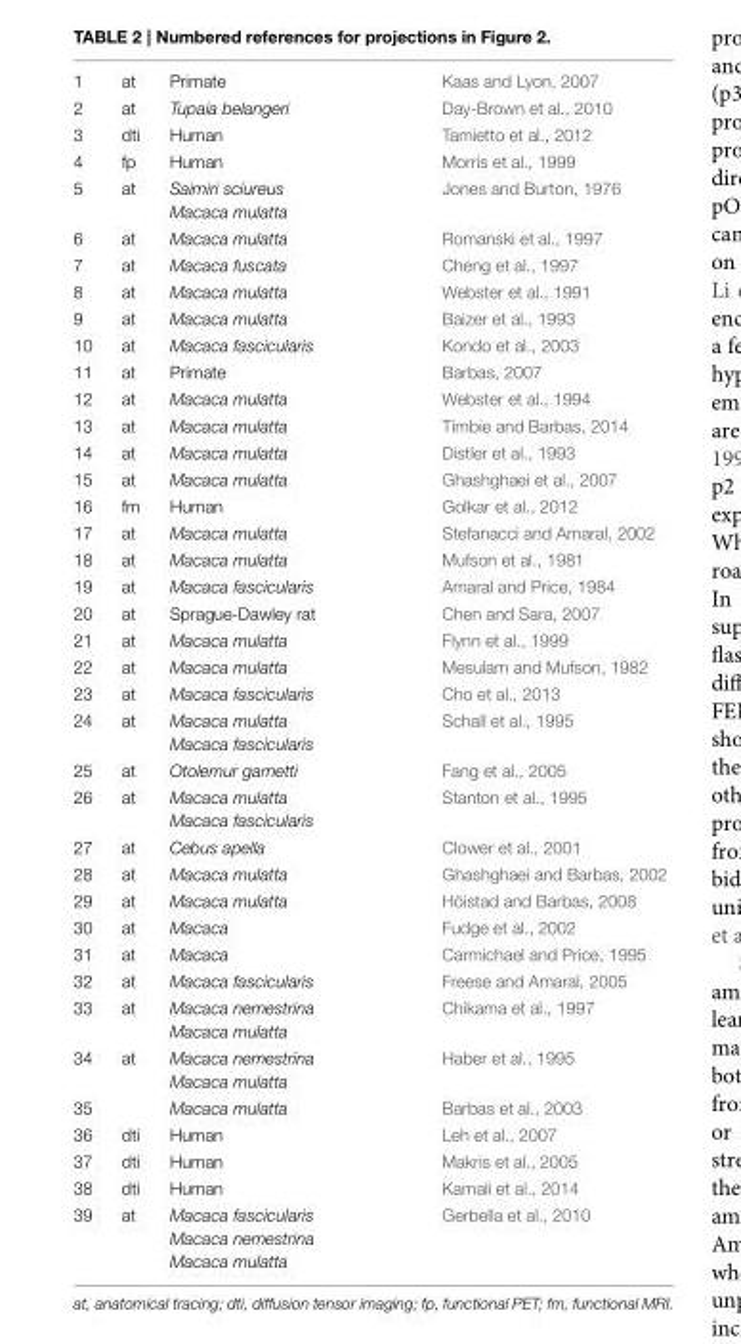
<table><tbody><tr><td>1</td><td>at</td><td>Primate</td><td>Kaas and Lyon, 2007</td></tr><tr><td>2</td><td>at</td><td>Tupaia belangeri</td><td>Day-Brown et al., 2010</td></tr><tr><td>3</td><td>dti</td><td>Human</td><td>Tamietto et al., 2012</td></tr><tr><td>4</td><td>fp</td><td>Human</td><td>Morris et al., 1999</td></tr><tr><td>5</td><td>at</td><td>Saimiri sciureus Macaca mulatta</td><td>Jones and Burton, 1976</td></tr><tr><td>6</td><td>at</td><td>Macaca mulatta</td><td>Romanski et al., 1997</td></tr><tr><td>7</td><td>at</td><td>Macaca fuscata</td><td>Cheng et al., 1997</td></tr><tr><td>8</td><td>at</td><td>Macaca mulatta</td><td>Webster et al., 1991</td></tr><tr><td>9</td><td>at</td><td>Macaca mulatta</td><td>Baizer et al., 1993</td></tr><tr><td>10</td><td>at</td><td>Macaca fascicularis</td><td>Kondo et al., 2003</td></tr><tr><td>11</td><td>at</td><td>Primate</td><td>Barbas, 2007</td></tr><tr><td>12</td><td>at</td><td>Macaca mulatta</td><td>Webster et al., 1994</td></tr><tr><td>13</td><td>at</td><td>Macaca mulatta</td><td>Timbie and Barbas, 2014</td></tr><tr><td>14</td><td>at</td><td>Macaca mulatta</td><td>Distler et al., 1993</td></tr><tr><td>15</td><td>at</td><td>Macaca mulatta</td><td>Ghashghaei et al., 2007</td></tr><tr><td>16</td><td>fm</td><td>Human</td><td>Golkar et al., 2012</td></tr><tr><td>17</td><td>at</td><td>Macaca mulatta</td><td>Stefanacci and Amaral, 2002</td></tr><tr><td>18</td><td>at</td><td>Macaca mulatta</td><td>Mufson et al., 1981</td></tr><tr><td>19</td><td>at</td><td>Macaca fascicularis</td><td>Amaral and Price, 1984</td></tr><tr><td>20</td><td>at</td><td>Sprague-Dawley rat</td><td>Chen and Sara, 2007</td></tr><tr><td>21</td><td>at</td><td>Macaca mulatta</td><td>Flynn et al., 1999</td></tr><tr><td>22</td><td>at</td><td>Macaca mulatta</td><td>Mesulam and Mufson, 1982</td></tr><tr><td>23</td><td>at</td><td>Macaca fascicularis</td><td>Cho et al., 2013</td></tr><tr><td>24</td><td>at</td><td>Macaca mulatta Macaca fascicularis</td><td>Schall et al., 1995</td></tr><tr><td>25</td><td>at</td><td>Otolemur garnetti</td><td>Fang et al., 2005</td></tr><tr><td>26</td><td>at</td><td>Macaca mulatta Macaca fascicularis</td><td>Stanton et al., 1995</td></tr><tr><td>27</td><td>at</td><td>Cebus apella</td><td>Clower et al., 2001</td></tr><tr><td>28</td><td>at</td><td>Macaca mulatta</td><td>Ghashghaei and Barbas, 2002</td></tr><tr><td>29</td><td>at</td><td>Macaca mulatta</td><td>Höistad and Barbas, 2008</td></tr><tr><td>30</td><td>at</td><td>Macaca</td><td>Fudge et al., 2002</td></tr><tr><td>31</td><td>at</td><td>Macaca</td><td>Carmichael and Price, 1995</td></tr><tr><td>32</td><td>at</td><td>Macaca fascicularis</td><td>Freese and Amaral, 2005</td></tr><tr><td>33</td><td>at</td><td>Macaca nemestrina Macaca mulatta</td><td>Chikama et al., 1997</td></tr><tr><td>34</td><td>at</td><td>Macaca nemestrina Macaca mulatta</td><td>Haber et al., 1995</td></tr><tr><td>35</td><td></td><td>Macaca mulatta</td><td>Barbas et al., 2003</td></tr><tr><td>36</td><td>dti</td><td>Human</td><td>Leh et al., 2007</td></tr><tr><td>37</td><td>dti</td><td>Human</td><td>Makris et al., 2005</td></tr><tr><td>38</td><td>dti</td><td>Human</td><td>Kamali et al., 2014</td></tr><tr><td>39</td><td>at</td><td>Macaca fascicularis Macaca nemestrina Macaca mulatta</td><td>Gerbella et al., 2010</td></tr></tbody></table>